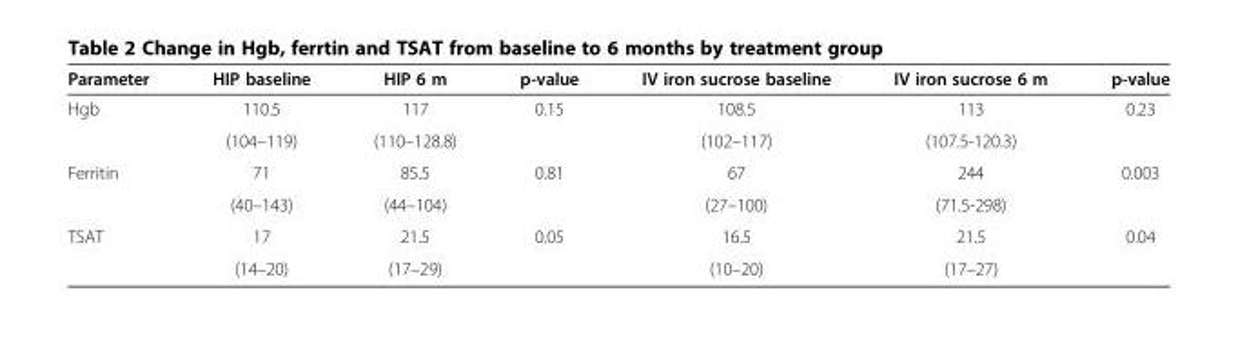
<table><thead><tr><td>Parameter</td><td>HIP baseline</td><td>HIP 6 m</td><td>p-value</td><td>IV iron sucrose baseline</td><td>IV iron sucrose 6 m</td><td>p-value</td></tr></thead><tbody><tr><td rowspan="2">Hgb</td><td>110.5</td><td>117</td><td>0.15</td><td>108.5</td><td>113</td><td>0.23</td></tr><tr><td>(104–119)</td><td>(110–128.8)</td><td></td><td>(102–117)</td><td>(107.5-120.3)</td><td></td></tr><tr><td rowspan="2">Ferritin</td><td>71</td><td>85.5</td><td>0.81</td><td>67</td><td>244</td><td>0.003</td></tr><tr><td>(40–143)</td><td>(44–104)</td><td></td><td>(27–100)</td><td>(71.5-298)</td><td></td></tr><tr><td rowspan="2">TSAT</td><td>17</td><td>21.5</td><td>0.05</td><td>16.5</td><td>21.5</td><td>0.04</td></tr><tr><td>(14–20)</td><td>(17–29)</td><td></td><td>(10–20)</td><td>(17–27)</td><td></td></tr></tbody></table>